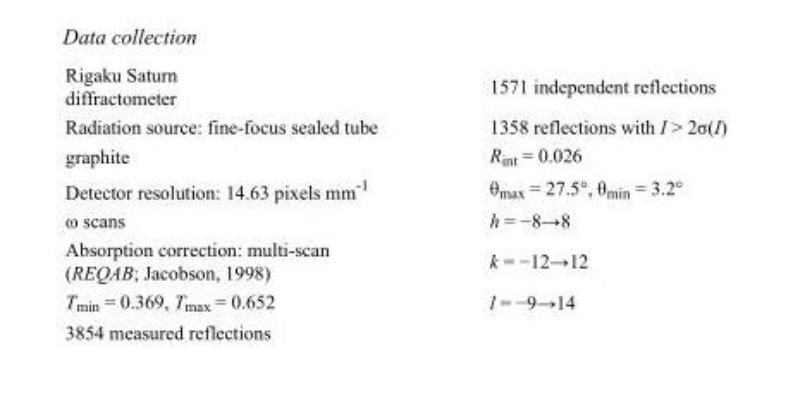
<table><tbody><tr><td>Rigaku Saturn diffractometer</td><td>1571 independent reflections</td></tr><tr><td>Radiation source: fine-focus sealed tube</td><td>1358 reflections with I &gt; 2σ(I)</td></tr><tr><td>graphite</td><td>R<sub>int</sub> = 0.026</td></tr><tr><td>Detector resolution: 14.63 pixels mm<sup>-1</sup></td><td>θ<sub>max</sub> = 27.5°, θ<sub>min</sub> = 3.2°</td></tr><tr><td>ω scans</td><td>h = −8→8</td></tr><tr><td>Absorption correction: multi-scan (REQAB; Jacobson, 1998)</td><td>k = −12→12</td></tr><tr><td>T<sub>min</sub> = 0.369, T<sub>max</sub> = 0.652</td><td>l = −9→14</td></tr><tr><td>3854 measured reflections</td><td></td></tr></tbody></table>